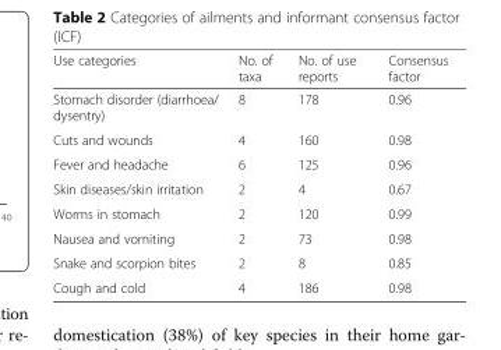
<table><thead><tr><td>Use categories</td><td>No. of taxa</td><td>No. of use reports</td><td>Consensus factor</td></tr></thead><tbody><tr><td>Stomach disorder (diarrhoea/ dysentry)</td><td>8</td><td>178</td><td>0.96</td></tr><tr><td>Cuts and wounds</td><td>4</td><td>160</td><td>0.98</td></tr><tr><td>Fever and headache</td><td>6</td><td>125</td><td>0.96</td></tr><tr><td>Skin diseases/skin irritation</td><td>2</td><td>4</td><td>0.67</td></tr><tr><td>Worms in stomach</td><td>2</td><td>120</td><td>0.99</td></tr><tr><td>Nausea and vomiting</td><td>2</td><td>73</td><td>0.98</td></tr><tr><td>Snake and scorpion bites</td><td>2</td><td>8</td><td>0.85</td></tr><tr><td>Cough and cold</td><td>4</td><td>186</td><td>0.98</td></tr></tbody></table>